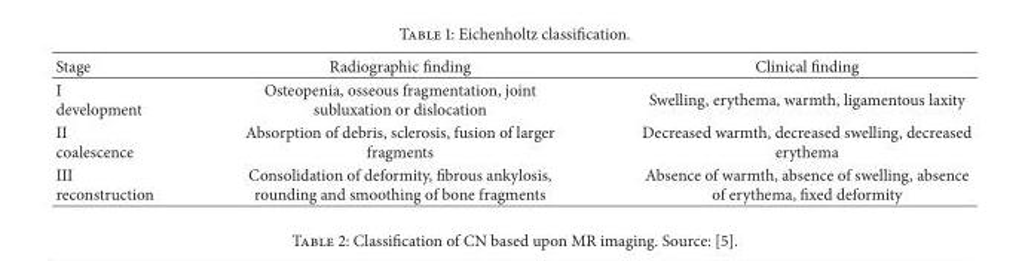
<table><thead><tr><td>Stage</td><td>Radiographic finding</td><td>Clinical finding</td></tr></thead><tbody><tr><td>I development</td><td>Osteopenia, osseous fragmentation, joint subluxation or dislocation</td><td>Swelling, erythema, warmth, ligamentous laxity</td></tr><tr><td>II coalescence</td><td>Absorption of debris, sclerosis, fusion of larger fragments</td><td>Decreased warmth, decreased swelling, decreased erythema</td></tr><tr><td>III reconstruction</td><td>Consolidation of deformity, fibrous ankylosis, rounding and smoothing of bone fragments</td><td>Absence of warmth, absence of swelling, absence of erythema, fixed deformity</td></tr></tbody></table>